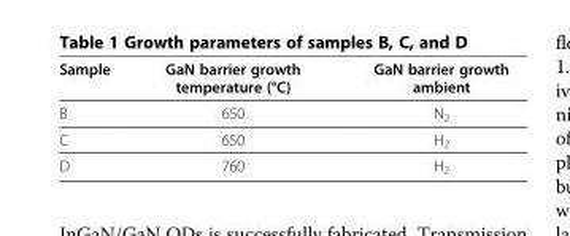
<table><thead><tr><td>Sample</td><td>GaN barrier growth temperature (°C)</td><td>GaN barrier growth ambient</td></tr></thead><tbody><tr><td>B</td><td>650</td><td>N<sub>2</sub></td></tr><tr><td>C</td><td>650</td><td>H<sub>2</sub></td></tr><tr><td>D</td><td>760</td><td>H<sub>2</sub></td></tr></tbody></table>